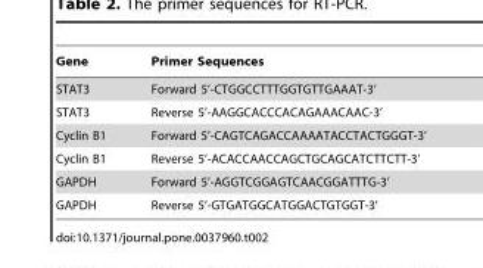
<table><thead><tr><td>Gene</td><td>Primer Sequences</td></tr></thead><tbody><tr><td>STAT3</td><td>Forward 5’-CTGGCCTTTGGTGTTGAAAT-3’</td></tr><tr><td>STAT3</td><td>Reverse 5’-AAGGCACCCACAGAAACAAC-3’</td></tr><tr><td>Cyclin B1</td><td>Forward 5’-CAGTCAGACCAAAATACCTACTGGGT-3’</td></tr><tr><td>Cyclin B1</td><td>Reverse 5’-ACACCAACCAGCTGCAGCATCTTCTT-3’</td></tr><tr><td>GAPDH</td><td>Forward 5’-AGGTCGGAGTCAACGGATTTG-3’</td></tr><tr><td>GAPDH</td><td>Reverse 5’-GTGATGGCATGGACTGTGGT-3’</td></tr></tbody></table>